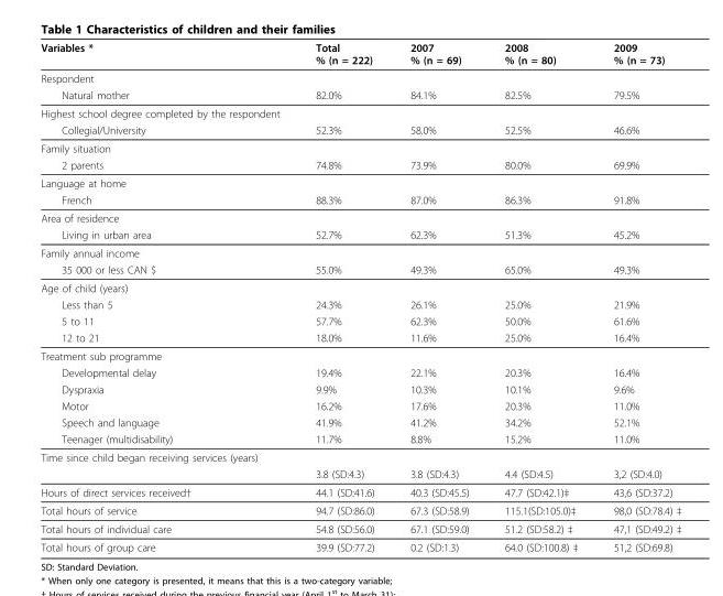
<table><thead><tr><td>Variables *</td><td>Total % (n = 222)</td><td>2007 % (n = 69)</td><td>2008 % (n = 80)</td><td>2009 % (n = 73)</td></tr></thead><tbody><tr><td colspan="5">Respondent</td></tr><tr><td>Natural mother</td><td>82.0%</td><td>84.1%</td><td>82.5%</td><td>79.5%</td></tr><tr><td colspan="5">Highest school degree completed by the respondent</td></tr><tr><td>Collegial/University</td><td>52.3%</td><td>58.0%</td><td>52.5%</td><td>46.6%</td></tr><tr><td colspan="5">Family situation</td></tr><tr><td>2 parents</td><td>74.8%</td><td>73.9%</td><td>80.0%</td><td>69.9%</td></tr><tr><td colspan="5">Language at home</td></tr><tr><td>French</td><td>88.3%</td><td>87.0%</td><td>86.3%</td><td>91.8%</td></tr><tr><td colspan="5">Area of residence</td></tr><tr><td>Living in urban area</td><td>52.7%</td><td>62.3%</td><td>51.3%</td><td>45.2%</td></tr><tr><td colspan="5">Family annual income</td></tr><tr><td>35 000 or less CAN $</td><td>55.0%</td><td>49.3%</td><td>65.0%</td><td>49.3%</td></tr><tr><td colspan="5">Age of child (years)</td></tr><tr><td>Less than 5</td><td>24.3%</td><td>26.1%</td><td>25.0%</td><td>21.9%</td></tr><tr><td>5 to 11</td><td>57.7%</td><td>62.3%</td><td>50.0%</td><td>61.6%</td></tr><tr><td>12 to 21</td><td>18.0%</td><td>11.6%</td><td>25.0%</td><td>16.4%</td></tr><tr><td colspan="5">Treatment sub programme</td></tr><tr><td>Developmental delay</td><td>19.4%</td><td>22.1%</td><td>20.3%</td><td>16.4%</td></tr><tr><td>Dyspraxia</td><td>9.9%</td><td>10.3%</td><td>10.1%</td><td>9.6%</td></tr><tr><td>Motor</td><td>16.2%</td><td>17.6%</td><td>20.3%</td><td>11.0%</td></tr><tr><td>Speech and language</td><td>41.9%</td><td>41.2%</td><td>34.2%</td><td>52.1%</td></tr><tr><td>Teenager (multidisability)</td><td>11.7%</td><td>8.8%</td><td>15.2%</td><td>11.0%</td></tr><tr><td colspan="5">Time since child began receiving services (years)</td></tr><tr><td></td><td>3.8 (SD:4.3)</td><td>3.8 (SD:4.3)</td><td>4.4 (SD:4.5)</td><td>3,2 (SD:4.0)</td></tr><tr><td>Hours of direct services received†</td><td>44.1 (SD:41.6)</td><td>40.3 (SD:45.5)</td><td>47.7 (SD:42.1)‡</td><td>43,6 (SD:37.2)</td></tr><tr><td>Total hours of service</td><td>94.7 (SD:86.0)</td><td>67.3 (SD:58.9)</td><td>115.1(SD:105.0)‡</td><td>98,0 (SD:78.4) ‡</td></tr><tr><td>Total hours of individual care</td><td>54.8 (SD:56.0)</td><td>67.1 (SD:59.0)</td><td>51.2 (SD:58.2) ‡</td><td>47,1 (SD:49.2) ‡</td></tr><tr><td>Total hours of group care</td><td>39.9 (SD:77.2)</td><td>0.2 (SD:1.3)</td><td>64.0 (SD:100.8) ‡</td><td>51,2 (SD:69.8)</td></tr></tbody></table>